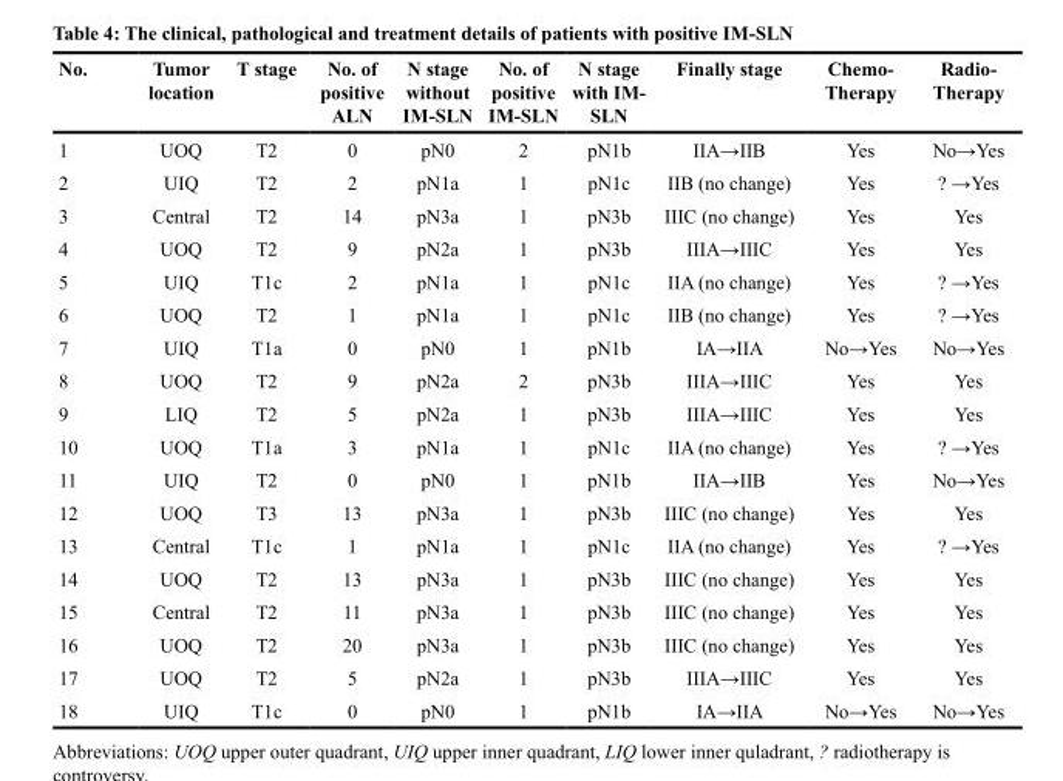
<table><thead><tr><td>No.</td><td>Tumor location</td><td>T stage</td><td>No. of positive ALN</td><td>N stage without IM-SLN</td><td>No. of positive IM-SLN</td><td>N stage with IM- SLN</td><td>Finally stage</td><td>Chemo- Therapy</td><td>Radio- Therapy</td></tr></thead><tbody><tr><td>1</td><td>UOQ</td><td>T2</td><td>0</td><td>pN0</td><td>2</td><td>pN1b</td><td>IIA→IIB</td><td>Yes</td><td>No→Yes</td></tr><tr><td>2</td><td>UIQ</td><td>T2</td><td>2</td><td>pN1a</td><td>1</td><td>pN1c</td><td>IIB (no change)</td><td>Yes</td><td>? →Yes</td></tr><tr><td>3</td><td>Central</td><td>T2</td><td>14</td><td>pN3a</td><td>1</td><td>pN3b</td><td>IIIC (no change)</td><td>Yes</td><td>Yes</td></tr><tr><td>4</td><td>UOQ</td><td>T2</td><td>9</td><td>pN2a</td><td>1</td><td>pN3b</td><td>IIIA→IIIC</td><td>Yes</td><td>Yes</td></tr><tr><td>5</td><td>UIQ</td><td>T1c</td><td>2</td><td>pN1a</td><td>1</td><td>pN1c</td><td>IIA (no change)</td><td>Yes</td><td>? →Yes</td></tr><tr><td>6</td><td>UOQ</td><td>T2</td><td>1</td><td>pN1a</td><td>1</td><td>pN1c</td><td>IIB (no change)</td><td>Yes</td><td>? →Yes</td></tr><tr><td>7</td><td>UIQ</td><td>T1a</td><td>0</td><td>pN0</td><td>1</td><td>pN1b</td><td>IA→IIA</td><td>No→Yes</td><td>No→Yes</td></tr><tr><td>8</td><td>UOQ</td><td>T2</td><td>9</td><td>pN2a</td><td>2</td><td>pN3b</td><td>IIIA→IIIC</td><td>Yes</td><td>Yes</td></tr><tr><td>9</td><td>LIQ</td><td>T2</td><td>5</td><td>pN2a</td><td>1</td><td>pN3b</td><td>IIIA→IIIC</td><td>Yes</td><td>Yes</td></tr><tr><td>10</td><td>UOQ</td><td>T1a</td><td>3</td><td>pN1a</td><td>1</td><td>pN1c</td><td>IIA (no change)</td><td>Yes</td><td>? →Yes</td></tr><tr><td>11</td><td>UIQ</td><td>T2</td><td>0</td><td>pN0</td><td>1</td><td>pN1b</td><td>IIA→IIB</td><td>Yes</td><td>No→Yes</td></tr><tr><td>12</td><td>UOQ</td><td>T3</td><td>13</td><td>pN3a</td><td>1</td><td>pN3b</td><td>IIIC (no change)</td><td>Yes</td><td>Yes</td></tr><tr><td>13</td><td>Central</td><td>T1c</td><td>1</td><td>pN1a</td><td>1</td><td>pN1c</td><td>IIA (no change)</td><td>Yes</td><td>? →Yes</td></tr><tr><td>14</td><td>UOQ</td><td>T2</td><td>13</td><td>pN3a</td><td>1</td><td>pN3b</td><td>IIIC (no change)</td><td>Yes</td><td>Yes</td></tr><tr><td>15</td><td>Central</td><td>T2</td><td>11</td><td>pN3a</td><td>1</td><td>pN3b</td><td>IIIC (no change)</td><td>Yes</td><td>Yes</td></tr><tr><td>16</td><td>UOQ</td><td>T2</td><td>20</td><td>pN3a</td><td>1</td><td>pN3b</td><td>IIIC (no change)</td><td>Yes</td><td>Yes</td></tr><tr><td>17</td><td>UOQ</td><td>T2</td><td>5</td><td>pN2a</td><td>1</td><td>pN3b</td><td>IIIA→IIIC</td><td>Yes</td><td>Yes</td></tr><tr><td>18</td><td>UIQ</td><td>T1c</td><td>0</td><td>pN0</td><td>1</td><td>pN1b</td><td>IA→IIA</td><td>No→Yes</td><td>No→Yes</td></tr></tbody></table>